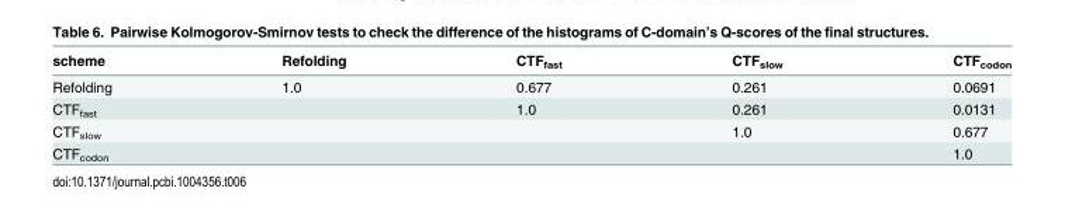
<table><thead><tr><td>scheme</td><td>Refolding</td><td>CTF<sub>fast</sub></td><td>CTF<sub>slow</sub></td><td>CTF<sub>codon</sub></td></tr></thead><tbody><tr><td>Refolding</td><td>1.0</td><td>0.677</td><td>0.261</td><td>0.0691</td></tr><tr><td>CTF<sub>fast</sub></td><td></td><td>1.0</td><td>0.261</td><td>0.0131</td></tr><tr><td>CTF<sub>slow</sub></td><td></td><td></td><td>1.0</td><td>0.677</td></tr><tr><td>CTF<sub>codon</sub></td><td></td><td></td><td></td><td>1.0</td></tr></tbody></table>